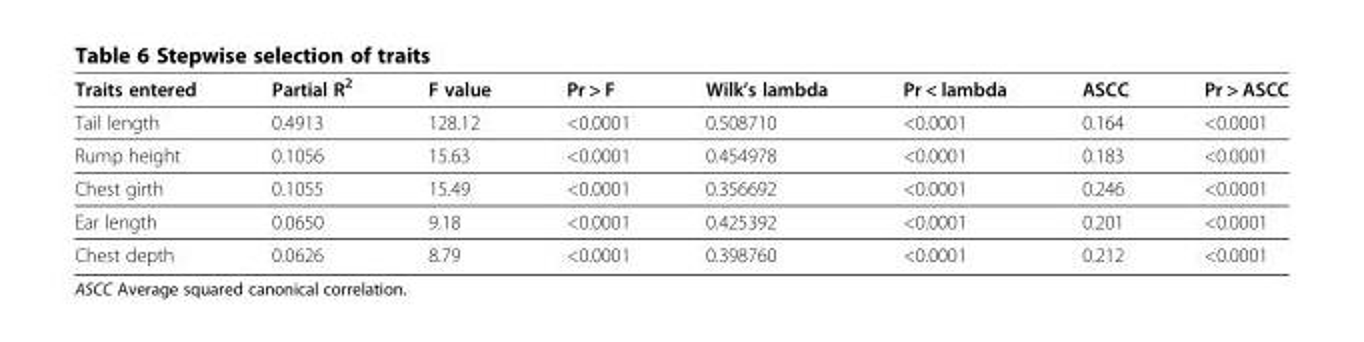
<table><thead><tr><td>Traits entered</td><td>Partial R<sup>2</sup></td><td>F value</td><td>Pr &gt; F</td><td>Wilk’s lambda</td><td>Pr &lt; lambda</td><td>ASCC</td><td>Pr &gt; ASCC</td></tr></thead><tbody><tr><td>Tail length</td><td>0.4913</td><td>128.12</td><td>&lt;0.0001</td><td>0.508710</td><td>&lt;0.0001</td><td>0.164</td><td>&lt;0.0001</td></tr><tr><td>Rump height</td><td>0.1056</td><td>15.63</td><td>&lt;0.0001</td><td>0.454978</td><td>&lt;0.0001</td><td>0.183</td><td>&lt;0.0001</td></tr><tr><td>Chest girth</td><td>0.1055</td><td>15.49</td><td>&lt;0.0001</td><td>0.356692</td><td>&lt;0.0001</td><td>0.246</td><td>&lt;0.0001</td></tr><tr><td>Ear length</td><td>0.0650</td><td>9.18</td><td>&lt;0.0001</td><td>0.425392</td><td>&lt;0.0001</td><td>0.201</td><td>&lt;0.0001</td></tr><tr><td>Chest depth</td><td>0.0626</td><td>8.79</td><td>&lt;0.0001</td><td>0.398760</td><td>&lt;0.0001</td><td>0.212</td><td>&lt;0.0001</td></tr></tbody></table>